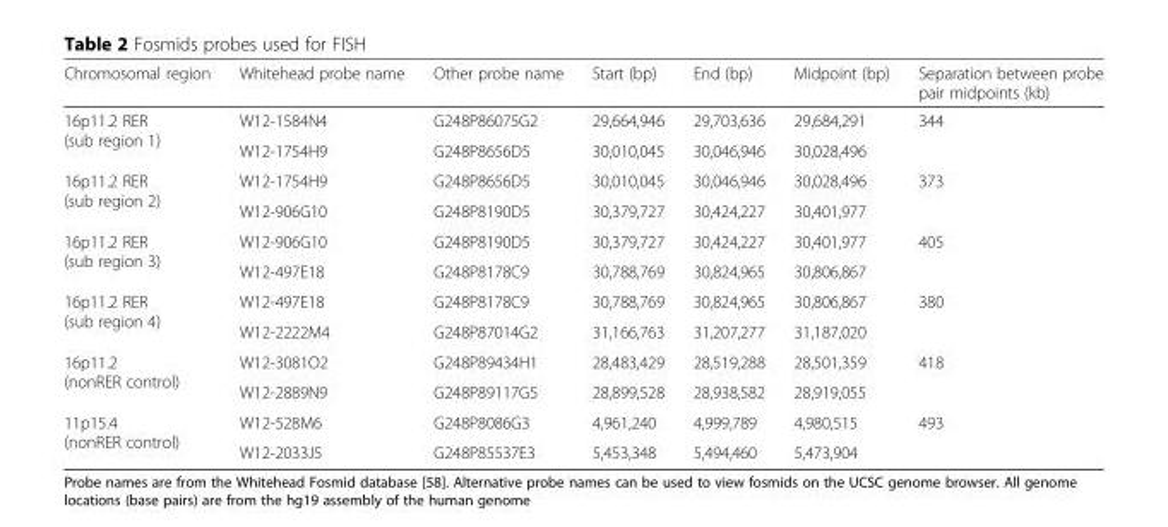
<table><thead><tr><td>Chromosomal region</td><td>Whitehead probe name</td><td>Other probe name</td><td>Start (bp)</td><td>End (bp)</td><td>Midpoint (bp)</td><td>Separation between probe pair midpoints (kb)</td></tr></thead><tbody><tr><td rowspan="2">16p11.2 RER (sub region 1)</td><td>W12-1584N4</td><td>G248P86075G2</td><td>29,664,946</td><td>29,703,636</td><td>29,684,291</td><td rowspan="2">344</td></tr><tr><td>W12-1754H9</td><td>G248P8656D5</td><td>30,010,045</td><td>30,046,946</td><td>30,028,496</td></tr><tr><td rowspan="2">16p11.2 RER (sub region 2)</td><td>W12-1754H9</td><td>G248P8656D5</td><td>30,010,045</td><td>30,046,946</td><td>30,028,496</td><td rowspan="2">373</td></tr><tr><td>W12-906G10</td><td>G248P8190D5</td><td>30,379,727</td><td>30,424,227</td><td>30,401,977</td></tr><tr><td rowspan="2">16p11.2 RER (sub region 3)</td><td>W12-906G10</td><td>G248P8190D5</td><td>30,379,727</td><td>30,424,227</td><td>30,401,977</td><td rowspan="2">405</td></tr><tr><td>W12-497E18</td><td>G248P8178C9</td><td>30,788,769</td><td>30,824,965</td><td>30,806,867</td></tr><tr><td rowspan="2">16p11.2 RER (sub region 4)</td><td>W12-497E18</td><td>G248P8178C9</td><td>30,788,769</td><td>30,824,965</td><td>30,806,867</td><td rowspan="2">380</td></tr><tr><td>W12-2222M4</td><td>G248P87014G2</td><td>31,166,763</td><td>31,207,277</td><td>31,187,020</td></tr><tr><td rowspan="2">16p11.2 (nonRER control)</td><td>W12-3081O2</td><td>G248P89434H1</td><td>28,483,429</td><td>28,519,288</td><td>28,501,359</td><td rowspan="2">418</td></tr><tr><td>W12-2889N9</td><td>G248P89117G5</td><td>28,899,528</td><td>28,938,582</td><td>28,919,055</td></tr><tr><td rowspan="2">11p15.4 (nonRER control)</td><td>W12-528M6</td><td>G248P8086G3</td><td>4,961,240</td><td>4,999,789</td><td>4,980,515</td><td rowspan="2">493</td></tr><tr><td>W12-2033J5</td><td>G248P85537E3</td><td>5,453,348</td><td>5,494,460</td><td>5,473,904</td></tr></tbody></table>